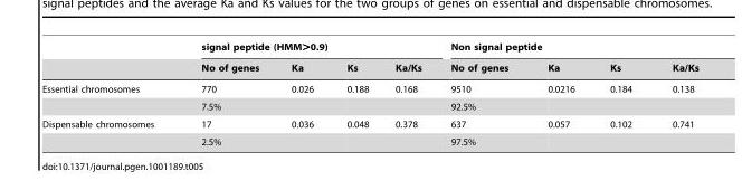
<table><thead><tr><td rowspan="2"></td><td colspan="4">signal peptide (HMM&gt;0.9)</td><td colspan="4">Non signal peptide</td></tr><tr><td>No of genes</td><td>Ka</td><td>Ks</td><td>Ka/Ks</td><td>No of genes</td><td>Ka</td><td>Ks</td><td>Ka/Ks</td></tr></thead><tbody><tr><td rowspan="2">Essential chromosomes</td><td>770</td><td>0.026</td><td>0.188</td><td>0.168</td><td>9510</td><td>0.0216</td><td>0.184</td><td>0.138</td></tr><tr><td>7.5%</td><td></td><td></td><td></td><td>92.5%</td><td></td><td></td><td></td></tr><tr><td rowspan="2">Dispensable chromosomes</td><td>17</td><td>0.036</td><td>0.048</td><td>0.378</td><td>637</td><td>0.057</td><td>0.102</td><td>0.741</td></tr><tr><td>2.5%</td><td></td><td></td><td></td><td>97.5%</td><td></td><td></td><td></td></tr></tbody></table>